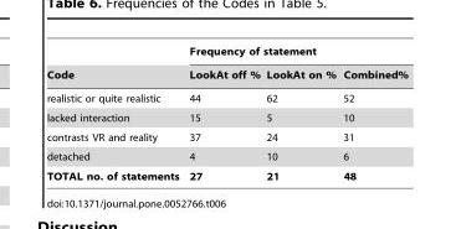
<table><thead><tr><td rowspan="2">Code</td><td colspan="3">Frequency of statement</td></tr><tr><td>LookAt off %</td><td>LookAt on %</td><td>Combined%</td></tr></thead><tbody><tr><td>realistic or quite realistic</td><td>44</td><td>62</td><td>52</td></tr><tr><td>lacked interaction</td><td>15</td><td>5</td><td>10</td></tr><tr><td>contrasts VR and reality</td><td>37</td><td>24</td><td>31</td></tr><tr><td>detached</td><td>4</td><td>10</td><td>6</td></tr><tr><td>TOTAL no. of statements</td><td>27</td><td>21</td><td>48</td></tr></tbody></table>